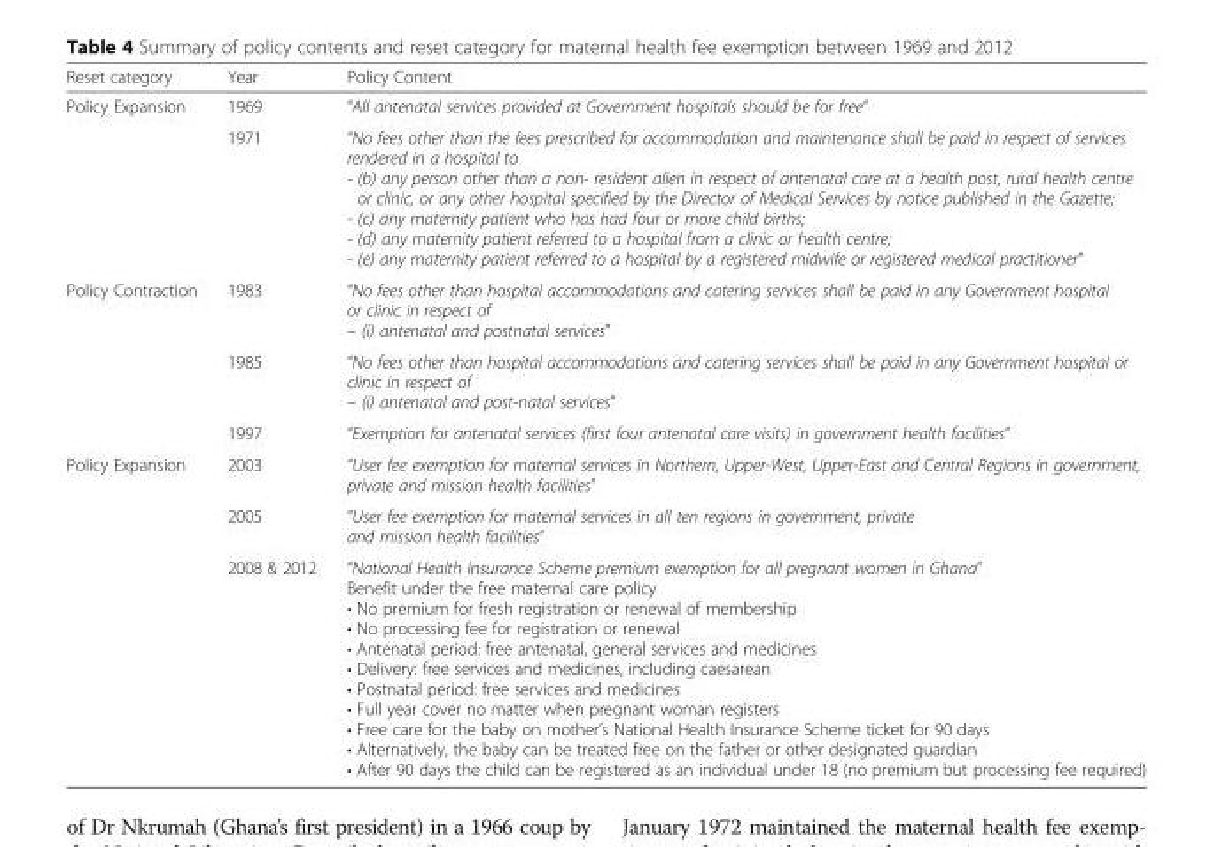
<table><thead><tr><td>Reset category</td><td>Year</td><td>Policy Content</td></tr></thead><tbody><tr><td rowspan="2">Policy Expansion</td><td>1969</td><td>“All antenatal services provided at Government hospitals should be for free”</td></tr><tr><td>1971</td><td>“No fees other than the fees prescribed for accommodation and maintenance shall be paid in respect of services rendered in a hospital to - (b) any person other than a non- resident alien in respect of antenatal care at a health post, rural health centre or clinic, or any other hospital specified by the Director of Medical Services by notice published in the Gazette; - (c) any maternity patient who has had four or more child births; - (d) any maternity patient referred to a hospital from a clinic or health centre; - (e) any maternity patient referred to a hospital by a registered midwife or registered medical practitioner”</td></tr><tr><td rowspan="3">Policy Contraction</td><td>1983</td><td>“No fees other than hospital accommodations and catering services shall be paid in any Government hospital or clinic in respect of – (i) antenatal and postnatal services”</td></tr><tr><td>1985</td><td>“No fees other than hospital accommodations and catering services shall be paid in any Government hospital or clinic in respect of – (i) antenatal and post-natal services”</td></tr><tr><td>1997</td><td>“Exemption for antenatal services (first four antenatal care visits) in government health facilities”</td></tr><tr><td rowspan="3">Policy Expansion</td><td>2003</td><td>“User fee exemption for maternal services in Northern, Upper-West, Upper-East and Central Regions in government, private and mission health facilities”</td></tr><tr><td>2005</td><td>“User fee exemption for maternal services in all ten regions in government, private and mission health facilities”</td></tr><tr><td>2008 &amp; 2012</td><td>“National Health Insurance Scheme premium exemption for all pregnant women in Ghana” Benefit under the free maternal care policy • No premium for fresh registration or renewal of membership • No processing fee for registration or renewal • Antenatal period: free antenatal, general services and medicines • Delivery: free services and medicines, including caesarean • Postnatal period: free services and medicines • Full year cover no matter when pregnant woman registers • Free care for the baby on mother’s National Health Insurance Scheme ticket for 90 days • Alternatively, the baby can be treated free on the father or other designated guardian • After 90 days the child can be registered as an individual under 18 (no premium but processing fee required)</td></tr></tbody></table>